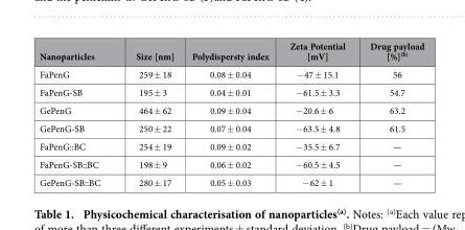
<table><thead><tr><td>Nanoparticles</td><td>Size [nm]</td><td>Polydispersty index</td><td>Zeta Potential [mV]</td><td>Drug payload [%]<sup>(b)</sup></td></tr></thead><tbody><tr><td>FaPenG</td><td>259 ± 18</td><td>0.08 ± 0.04</td><td>− 47 ± 15.1</td><td>56</td></tr><tr><td>FaPenG-SB</td><td>195 ± 3</td><td>0.04 ± 0.01</td><td>− 61.5 ± 3.3</td><td>54.7</td></tr><tr><td>GePenG</td><td>464 ± 62</td><td>0.09 ± 0.04</td><td>− 20.6 ± 6</td><td>63.2</td></tr><tr><td>GePenG-SB</td><td>250 ± 22</td><td>0.07 ± 0.04</td><td>− 63.5 ± 4.8</td><td>61.5</td></tr><tr><td>FaPenG::BC</td><td>254 ± 19</td><td>0.09 ± 0.02</td><td>− 35.5 ± 6.7</td><td>—</td></tr><tr><td>FaPenG-SB::BC</td><td>198 ± 9</td><td>0.06 ± 0.02</td><td>− 60.5 ± 4.5</td><td>—</td></tr><tr><td>GePenG-SB::BC</td><td>280 ± 17</td><td>0.05 ± 0.03</td><td>− 62 ± 1</td><td>—</td></tr></tbody></table>